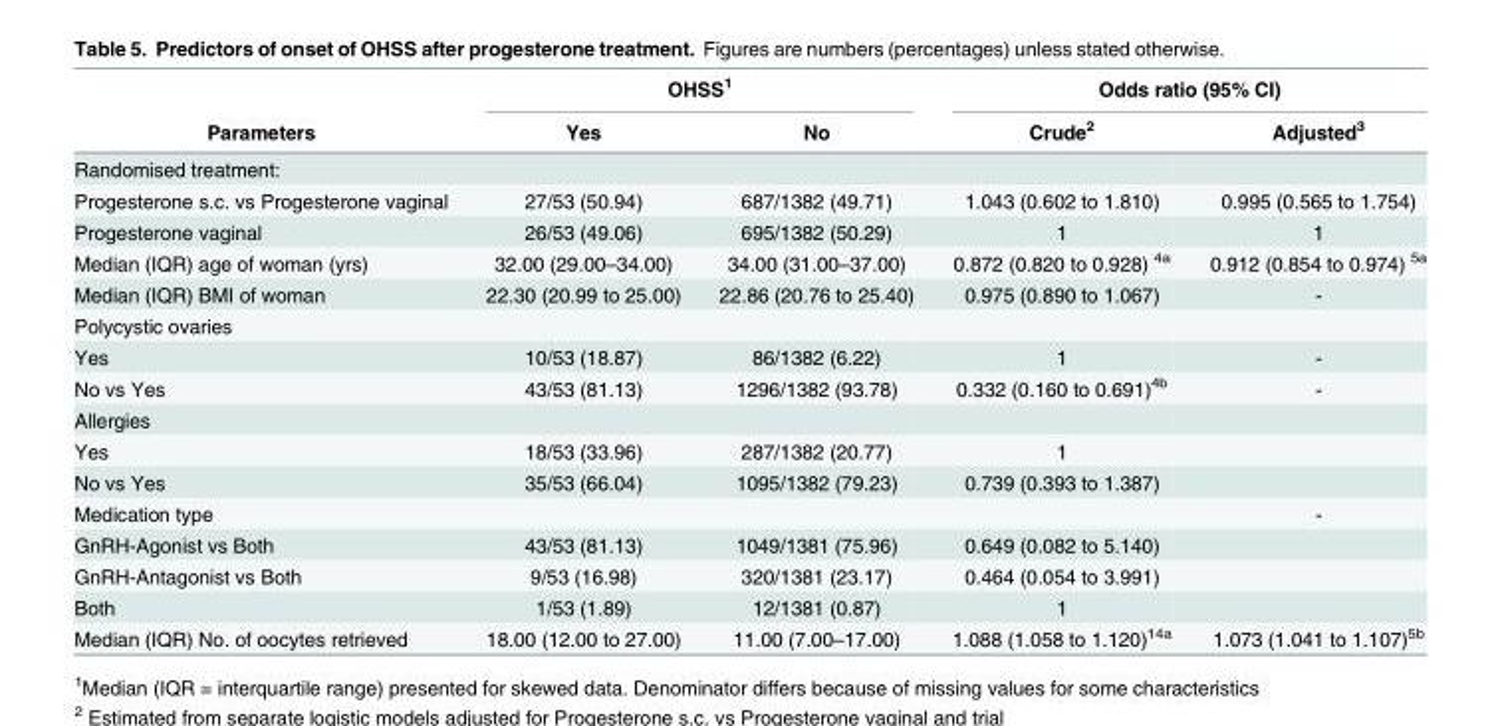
<table><thead><tr><td rowspan="2">Parameters</td><td colspan="2">OHSS<sup>1</sup></td><td colspan="2">Odds ratio (95% CI)</td></tr><tr><td>Yes</td><td>No</td><td>Crude<sup>2</sup></td><td>Adjusted<sup>3</sup></td></tr></thead><tbody><tr><td colspan="5">Randomised treatment:</td></tr><tr><td>Progesterone s.c. vs Progesterone vaginal</td><td>27/53 (50.94)</td><td>687/1382 (49.71)</td><td>1.043 (0.602 to 1.810)</td><td>0.995 (0.565 to 1.754)</td></tr><tr><td>Progesterone vaginal</td><td>26/53 (49.06)</td><td>695/1382 (50.29)</td><td>1</td><td>1</td></tr><tr><td>Median (IQR) age of woman (yrs)</td><td>32.00 (29.00–34.00)</td><td>34.00 (31.00–37.00)</td><td>0.872 (0.820 to 0.928) <sup>4a</sup></td><td>0.912 (0.854 to 0.974) <sup>5a</sup></td></tr><tr><td>Median (IQR) BMI of woman</td><td>22.30 (20.99 to 25.00)</td><td>22.86 (20.76 to 25.40)</td><td>0.975 (0.890 to 1.067)</td><td>-</td></tr><tr><td colspan="5">Polycystic ovaries</td></tr><tr><td>Yes</td><td>10/53 (18.87)</td><td>86/1382 (6.22)</td><td>1</td><td>-</td></tr><tr><td>No vs Yes</td><td>43/53 (81.13)</td><td>1296/1382 (93.78)</td><td>0.332 (0.160 to 0.691)<sup>4b</sup></td><td>-</td></tr><tr><td colspan="5">Allergies</td></tr><tr><td>Yes</td><td>18/53 (33.96)</td><td>287/1382 (20.77)</td><td>1</td><td></td></tr><tr><td>No vs Yes</td><td>35/53 (66.04)</td><td>1095/1382 (79.23)</td><td>0.739 (0.393 to 1.387)</td><td></td></tr><tr><td>Medication type</td><td></td><td></td><td></td><td>-</td></tr><tr><td>GnRH-Agonist vs Both</td><td>43/53 (81.13)</td><td>1049/1381 (75.96)</td><td>0.649 (0.082 to 5.140)</td><td></td></tr><tr><td>GnRH-Antagonist vs Both</td><td>9/53 (16.98)</td><td>320/1381 (23.17)</td><td>0.464 (0.054 to 3.991)</td><td></td></tr><tr><td>Both</td><td>1/53 (1.89)</td><td>12/1381 (0.87)</td><td>1</td><td></td></tr><tr><td>Median (IQR) No. of oocytes retrieved</td><td>18.00 (12.00 to 27.00)</td><td>11.00 (7.00–17.00)</td><td>1.088 (1.058 to 1.120)<sup>14a</sup></td><td>1.073 (1.041 to 1.107)<sup>5b</sup></td></tr></tbody></table>